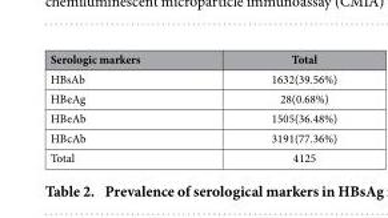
<table><thead><tr><td>Serologic markers</td><td>Total</td></tr></thead><tbody><tr><td>HBsAb</td><td>1632(39.56%)</td></tr><tr><td>HBeAg</td><td>28(0.68%)</td></tr><tr><td>HBeAb</td><td>1505(36.48%)</td></tr><tr><td>HBcAb</td><td>3191(77.36%)</td></tr><tr><td>Total</td><td>4125</td></tr></tbody></table>